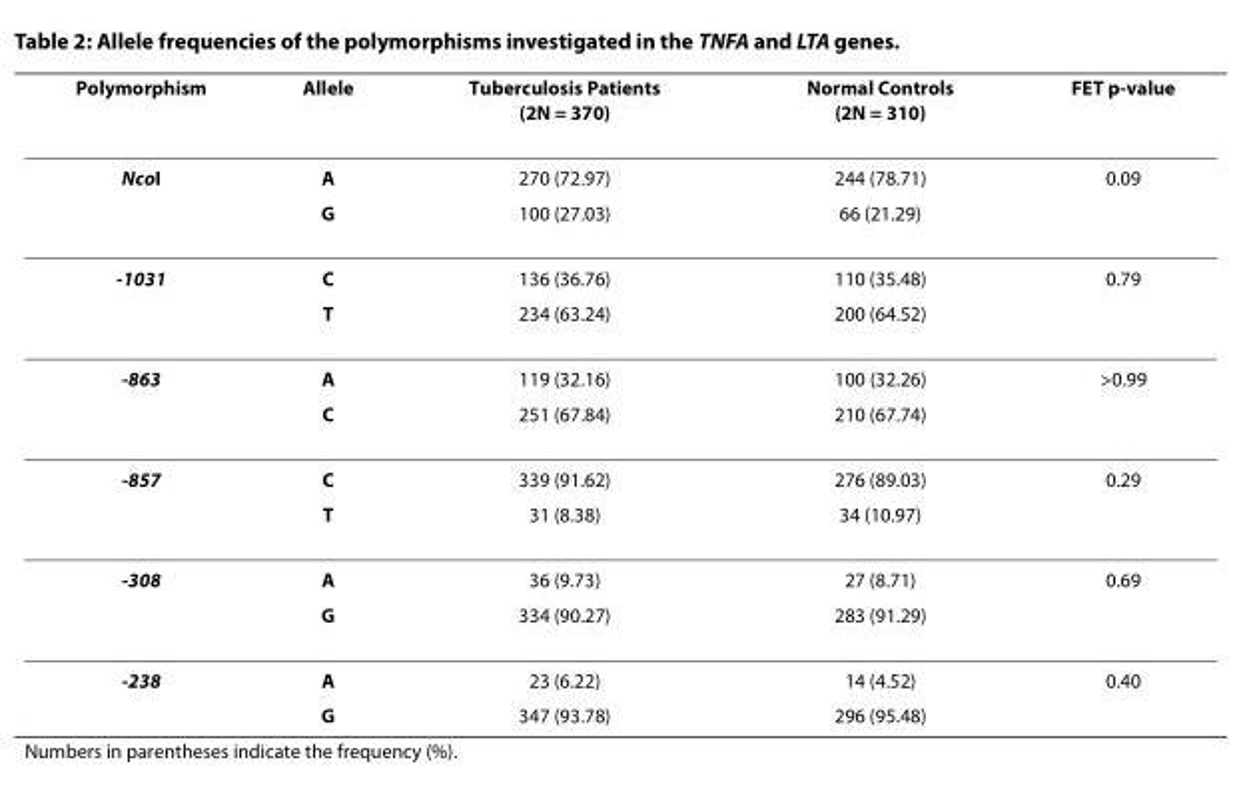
<table><thead><tr><td>Polymorphism</td><td>Allele</td><td>Tuberculosis Patients (2N = 370)</td><td>Normal Controls (2N = 310)</td><td>FET p-value</td></tr></thead><tbody><tr><td rowspan="2">NcoI</td><td>A</td><td>270 (72.97)</td><td>244 (78.71)</td><td>0.09</td></tr><tr><td>G</td><td>100 (27.03)</td><td>66 (21.29)</td><td></td></tr><tr><td rowspan="2">-1031</td><td>C</td><td>136 (36.76)</td><td>110 (35.48)</td><td>0.79</td></tr><tr><td>T</td><td>234 (63.24)</td><td>200 (64.52)</td><td></td></tr><tr><td rowspan="2">-863</td><td>A</td><td>119 (32.16)</td><td>100 (32.26)</td><td>&gt;0.99</td></tr><tr><td>C</td><td>251 (67.84)</td><td>210 (67.74)</td><td></td></tr><tr><td rowspan="2">-857</td><td>C</td><td>339 (91.62)</td><td>276 (89.03)</td><td>0.29</td></tr><tr><td>T</td><td>31 (8.38)</td><td>34 (10.97)</td><td></td></tr><tr><td rowspan="2">-308</td><td>A</td><td>36 (9.73)</td><td>27 (8.71)</td><td>0.69</td></tr><tr><td>G</td><td>334 (90.27)</td><td>283 (91.29)</td><td></td></tr><tr><td rowspan="2">-238</td><td>A</td><td>23 (6.22)</td><td>14 (4.52)</td><td>0.40</td></tr><tr><td>G</td><td>347 (93.78)</td><td>296 (95.48)</td><td></td></tr></tbody></table>